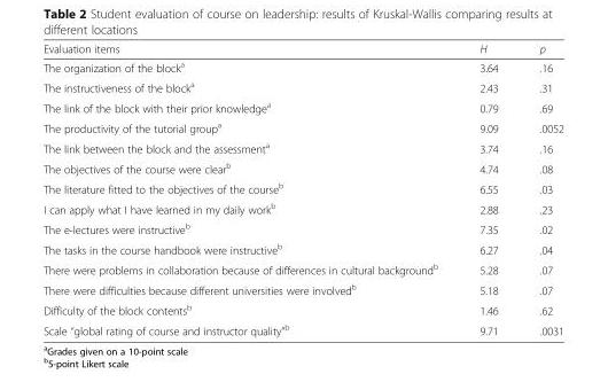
<table><thead><tr><td>Evaluation items</td><td>H</td><td>p</td></tr></thead><tbody><tr><td>The organization of the block<sup>a</sup></td><td>3.64</td><td>.16</td></tr><tr><td>The instructiveness of the block<sup>a</sup></td><td>2.43</td><td>.31</td></tr><tr><td>The link of the block with their prior knowledge<sup>a</sup></td><td>0.79</td><td>.69</td></tr><tr><td>The productivity of the tutorial group<sup>a</sup></td><td>9.09</td><td>.0052</td></tr><tr><td>The link between the block and the assessment<sup>a</sup></td><td>3.74</td><td>.16</td></tr><tr><td>The objectives of the course were clear<sup>b</sup></td><td>4.74</td><td>.08</td></tr><tr><td>The literature fitted to the objectives of the course<sup>b</sup></td><td>6.55</td><td>.03</td></tr><tr><td>I can apply what I have learned in my daily work<sup>b</sup></td><td>2.88</td><td>.23</td></tr><tr><td>The e-lectures were instructive<sup>b</sup></td><td>7.35</td><td>.02</td></tr><tr><td>The tasks in the course handbook were instructive<sup>b</sup></td><td>6.27</td><td>.04</td></tr><tr><td>There were problems in collaboration because of differences in cultural background<sup>b</sup></td><td>5.28</td><td>.07</td></tr><tr><td>There were difficulties because different universities were involved<sup>b</sup></td><td>5.18</td><td>.07</td></tr><tr><td>Difficulty of the block contents<sup>b</sup></td><td>1.46</td><td>.62</td></tr><tr><td>Scale “global rating of course and instructor quality”<sup>b</sup></td><td>9.71</td><td>.0031</td></tr></tbody></table>